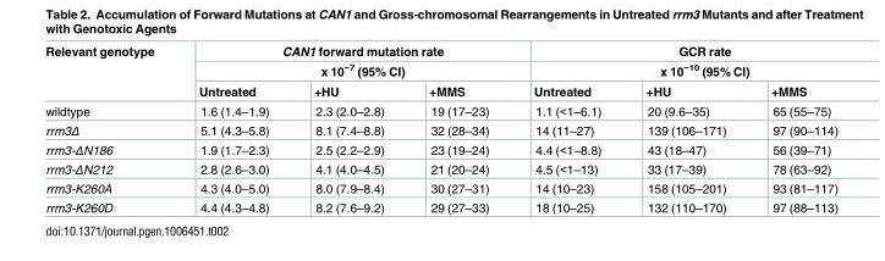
<table><thead><tr><td rowspan="3">Relevant genotype</td><td rowspan="2" colspan="3">CAN1 forward mutation rate x 10<sup>−7</sup> (95% CI)</td><td rowspan="2" colspan="3">GCR rate x 10<sup>−10</sup> (95% CI)</td></tr><tr></tr><tr><td>Untreated</td><td>+HU</td><td>+MMS</td><td>Untreated</td><td>+HU</td><td>+MMS</td></tr></thead><tbody><tr><td>wildtype</td><td>1.6 (1.4–1.9)</td><td>2.3 (2.0–2.8)</td><td>19 (17–23)</td><td>1.1 (&lt;1–6.1)</td><td>20 (9.6–35)</td><td>65 (55–75)</td></tr><tr><td>rrm3Δ</td><td>5.1 (4.3–5.8)</td><td>8.1 (7.4–8.8)</td><td>32 (28–34)</td><td>14 (11–27)</td><td>139 (106–171)</td><td>97 (90–114)</td></tr><tr><td>rrm3-ΔN186</td><td>1.9 (1.7–2.3)</td><td>2.5 (2.2–2.9)</td><td>23 (19–24)</td><td>4.4 (&lt;1–8.8)</td><td>43 (18–47)</td><td>56 (39–71)</td></tr><tr><td>rrm3-ΔN212</td><td>2.8 (2.6–3.0)</td><td>4.1 (4.0–4.5)</td><td>21 (20–24)</td><td>4.5 (&lt;1–13)</td><td>33 (17–39)</td><td>78 (63–92)</td></tr><tr><td>rrm3-K260A</td><td>4.3 (4.0–5.0)</td><td>8.0 (7.9–8.4)</td><td>30 (27–31)</td><td>14 (10–23)</td><td>158 (105–201)</td><td>93 (81–117)</td></tr><tr><td>rrm3-K260D</td><td>4.4 (4.3–4.8)</td><td>8.2 (7.6–9.2)</td><td>29 (27–33)</td><td>18 (10–25)</td><td>132 (110–170)</td><td>97 (88–113)</td></tr></tbody></table>